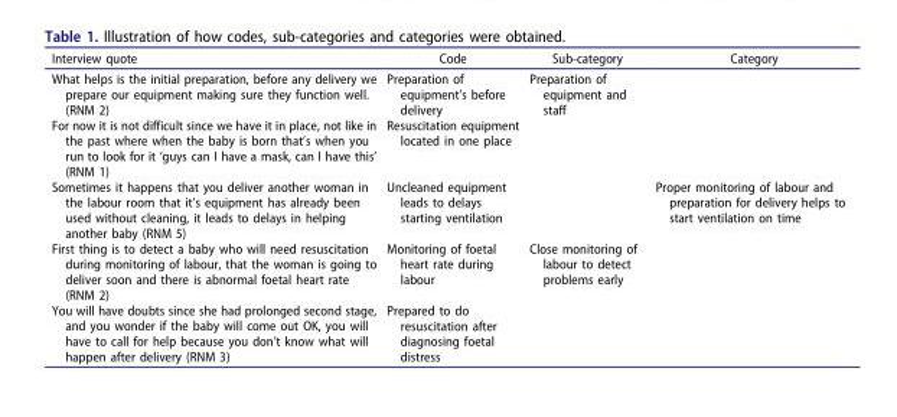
<table><thead><tr><td>Interview quote</td><td>Code</td><td>Sub-category</td><td>Category</td></tr></thead><tbody><tr><td>What helps is the initial preparation, before any delivery we prepare our equipment making sure they function well. (RNM 2)</td><td>Preparation of equipment’s before delivery</td><td>Preparation of equipment and staff</td><td></td></tr><tr><td>For now it is not difficult since we have it in place, not like in the past where when the baby is born that’s when you run to look for it ‘guys can I have a mask, can I have this’ (RNM 1)</td><td>Resuscitation equipment located in one place</td><td></td><td></td></tr><tr><td>Sometimes it happens that you deliver another woman in the labour room that it’s equipment has already been used without cleaning, it leads to delays in helping another baby (RNM 5)</td><td>Uncleaned equipment leads to delays starting ventilation</td><td></td><td>Proper monitoring of labour and preparation for delivery helps to start ventilation on time</td></tr><tr><td>First thing is to detect a baby who will need resuscitation during monitoring of labour, that the woman is going to deliver soon and there is abnormal foetal heart rate (RNM 2)</td><td>Monitoring of foetal heart rate during labour</td><td>Close monitoring of labour to detect problems early</td><td></td></tr><tr><td>You will have doubts since she had prolonged second stage, and you wonder if the baby will come out OK, you will have to call for help because you don’t know what will happen after delivery (RNM 3)</td><td>Prepared to do resuscitation after diagnosing foetal distress</td><td></td><td></td></tr></tbody></table>